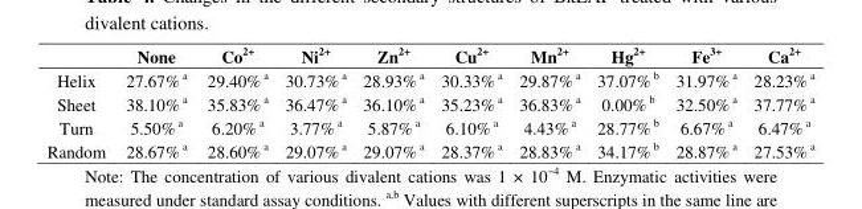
<table><thead><tr><td></td><td>None</td><td>Co<sup>2+</sup></td><td>Ni<sup>2+</sup></td><td>Zn<sup>2+</sup></td><td>Cu<sup>2+</sup></td><td>Mn<sup>2+</sup></td><td>Hg<sup>2+</sup></td><td>Fe<sup>3+</sup></td><td>Ca<sup>2+</sup></td></tr></thead><tbody><tr><td>Helix</td><td>27.67% a</td><td>29.40% a</td><td>30.73% a</td><td>28.93% a</td><td>30.33% a</td><td>29.87% a</td><td>37.07% b</td><td>31.97% a</td><td>28.23% a</td></tr><tr><td>Sheet</td><td>38.10% a</td><td>35.83% a</td><td>36.47% a</td><td>36.10% a</td><td>35.23% a</td><td>36.83% a</td><td>0.00% b</td><td>32.50% a</td><td>37.77% a</td></tr><tr><td>Turn</td><td>5.50% a</td><td>6.20% a</td><td>3.77% a</td><td>5.87% a</td><td>6.10% a</td><td>4.43% a</td><td>28.77% b</td><td>6.67% a</td><td>6.47% a</td></tr><tr><td>Random</td><td>28.67% a</td><td>28.60% a</td><td>29.07% a</td><td>29.07% a</td><td>28.37% a</td><td>28.83% a</td><td>34.17% b</td><td>28.87% a</td><td>27.53% a</td></tr></tbody></table>